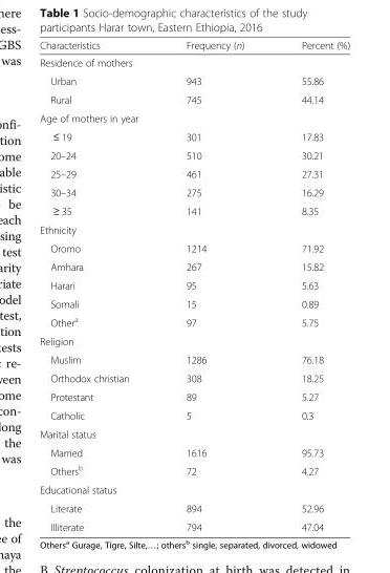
<table><thead><tr><td>Characteristics</td><td>Frequency (n)</td><td>Percent (%)</td></tr></thead><tbody><tr><td colspan="3">Residence of mothers</td></tr><tr><td>Urban</td><td>943</td><td>55.86</td></tr><tr><td>Rural</td><td>745</td><td>44.14</td></tr><tr><td colspan="3">Age of mothers in year</td></tr><tr><td>≤ 19</td><td>301</td><td>17.83</td></tr><tr><td>20–24</td><td>510</td><td>30.21</td></tr><tr><td>25–29</td><td>461</td><td>27.31</td></tr><tr><td>30–34</td><td>275</td><td>16.29</td></tr><tr><td>≥ 35</td><td>141</td><td>8.35</td></tr><tr><td colspan="3">Ethnicity</td></tr><tr><td>Oromo</td><td>1214</td><td>71.92</td></tr><tr><td>Amhara</td><td>267</td><td>15.82</td></tr><tr><td>Harari</td><td>95</td><td>5.63</td></tr><tr><td>Somali</td><td>15</td><td>0.89</td></tr><tr><td>Other<sup>a</sup></td><td>97</td><td>5.75</td></tr><tr><td colspan="3">Religion</td></tr><tr><td>Muslim</td><td>1286</td><td>76.18</td></tr><tr><td>Orthodox christian</td><td>308</td><td>18.25</td></tr><tr><td>Protestant</td><td>89</td><td>5.27</td></tr><tr><td>Catholic</td><td>5</td><td>0.3</td></tr><tr><td colspan="3">Marital status</td></tr><tr><td>Married</td><td>1616</td><td>95.73</td></tr><tr><td>Others<sup>b</sup></td><td>72</td><td>4.27</td></tr><tr><td colspan="3">Educational status</td></tr><tr><td>Literate</td><td>894</td><td>52.96</td></tr><tr><td>Illiterate</td><td>794</td><td>47.04</td></tr></tbody></table>